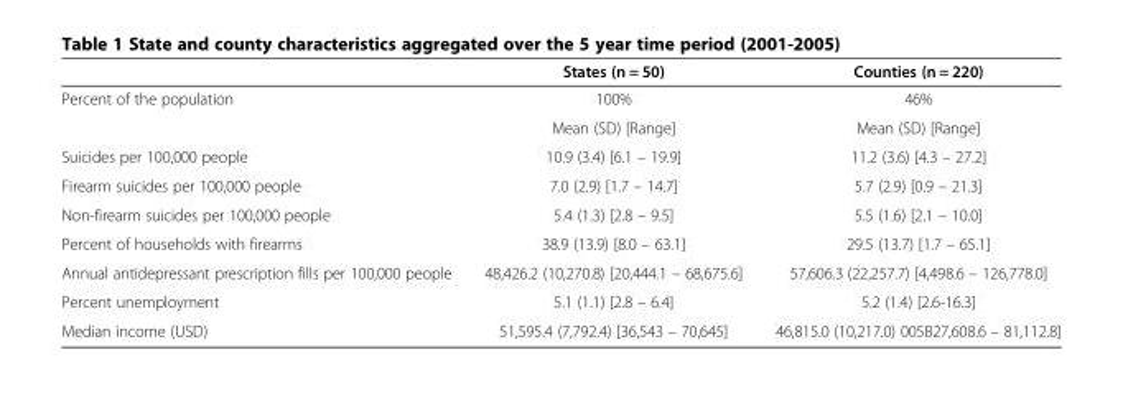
<table><thead><tr><td></td><td>States (n = 50)</td><td>Counties (n = 220)</td></tr></thead><tbody><tr><td rowspan="2">Percent of the population</td><td>100%</td><td>46%</td></tr><tr><td>Mean (SD) [Range]</td><td>Mean (SD) [Range]</td></tr><tr><td>Suicides per 100,000 people</td><td>10.9 (3.4) [6.1 – 19.9]</td><td>11.2 (3.6) [4.3 – 27.2]</td></tr><tr><td>Firearm suicides per 100,000 people</td><td>7.0 (2.9) [1.7 – 14.7]</td><td>5.7 (2.9) [0.9 – 21.3]</td></tr><tr><td>Non-firearm suicides per 100,000 people</td><td>5.4 (1.3) [2.8 – 9.5]</td><td>5.5 (1.6) [2.1 – 10.0]</td></tr><tr><td>Percent of households with firearms</td><td>38.9 (13.9) [8.0 – 63.1]</td><td>29.5 (13.7) [1.7 – 65.1]</td></tr><tr><td>Annual antidepressant prescription fills per 100,000 people</td><td>48,426.2 (10,270.8) [20,444.1 – 68,675.6]</td><td>57,606.3 (22,257.7) [4,498.6 – 126,778.0]</td></tr><tr><td>Percent unemployment</td><td>5.1 (1.1) [2.8 – 6.4]</td><td>5.2 (1.4) [2.6-16.3]</td></tr><tr><td>Median income (USD)</td><td>51,595.4 (7,792.4) [36,543 – 70,645]</td><td>46,815.0 (10,217.0) 005B27,608.6 – 81,112.8]</td></tr></tbody></table>